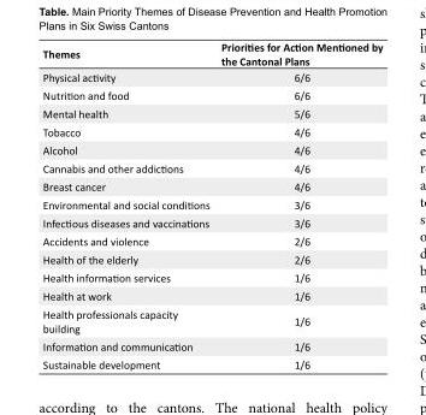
<table><tbody><tr><td>Themes</td><td>Priorities for Action Mentioned by the Cantonal Plans</td></tr><tr><td>Physical activity</td><td>6/6</td></tr><tr><td>Nutrition and food</td><td>6/6</td></tr><tr><td>Mental health</td><td>5/6</td></tr><tr><td>Tobacco</td><td>4/6</td></tr><tr><td>Alcohol</td><td>4/6</td></tr><tr><td>Cannabis and other addictions</td><td>4/6</td></tr><tr><td>Breast cancer</td><td>4/6</td></tr><tr><td>Environmental and social conditions</td><td>3/6</td></tr><tr><td>Infectious diseases and vaccinations</td><td>3/6</td></tr><tr><td>Accidents and violence</td><td>2/6</td></tr><tr><td>Health of the elderly</td><td>2/6</td></tr><tr><td>Health information services</td><td>1/6</td></tr><tr><td>Health at work</td><td>1/6</td></tr><tr><td>Health professionals capacity building</td><td>1/6</td></tr><tr><td>Information and communication</td><td>1/6</td></tr><tr><td>Sustainable development</td><td>1/6</td></tr></tbody></table>